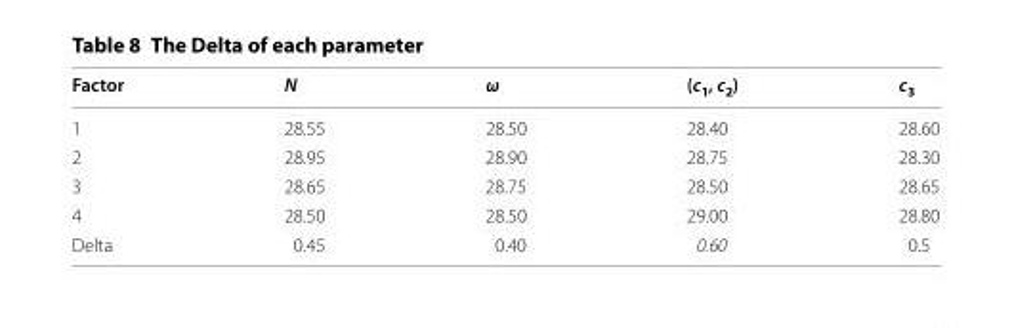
<table><thead><tr><td>Factor</td><td>N</td><td>ω</td><td>(c<sub>1</sub>, c<sub>2</sub>)</td><td>c<sub>3</sub></td></tr></thead><tbody><tr><td>1</td><td>28.55</td><td>28.50</td><td>28.40</td><td>28.60</td></tr><tr><td>2</td><td>28.95</td><td>28.90</td><td>28.75</td><td>28.30</td></tr><tr><td>3</td><td>28.65</td><td>28.75</td><td>28.50</td><td>28.65</td></tr><tr><td>4</td><td>28.50</td><td>28.50</td><td>29.00</td><td>28.80</td></tr><tr><td>Delta</td><td>0.45</td><td>0.40</td><td>0.60</td><td>0.5</td></tr></tbody></table>